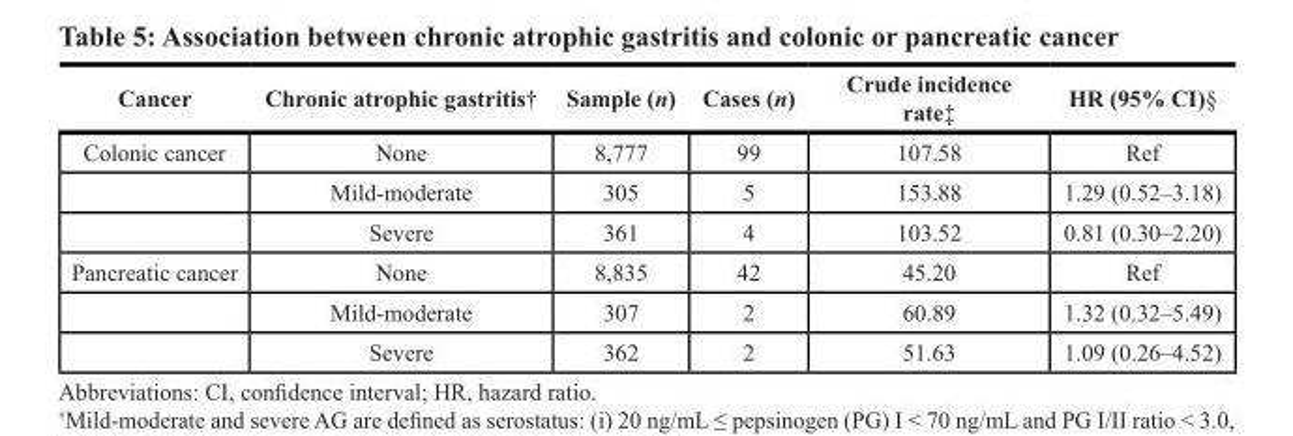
<table><thead><tr><td>Cancer</td><td>Chronic atrophic gastritis†</td><td>Sample (n)</td><td>Cases (n)</td><td>Crude incidence rate‡</td><td>HR (95% CI)§</td></tr></thead><tbody><tr><td rowspan="3">Colonic cancer</td><td>None</td><td>8,777</td><td>99</td><td>107.58</td><td>Ref</td></tr><tr><td>Mild-moderate</td><td>305</td><td>5</td><td>153.88</td><td>1.29 (0.52–3.18)</td></tr><tr><td>Severe</td><td>361</td><td>4</td><td>103.52</td><td>0.81 (0.30–2.20)</td></tr><tr><td rowspan="3">Pancreatic cancer</td><td>None</td><td>8,835</td><td>42</td><td>45.20</td><td>Ref</td></tr><tr><td>Mild-moderate</td><td>307</td><td>2</td><td>60.89</td><td>1.32 (0.32–5.49)</td></tr><tr><td>Severe</td><td>362</td><td>2</td><td>51.63</td><td>1.09 (0.26–4.52)</td></tr></tbody></table>